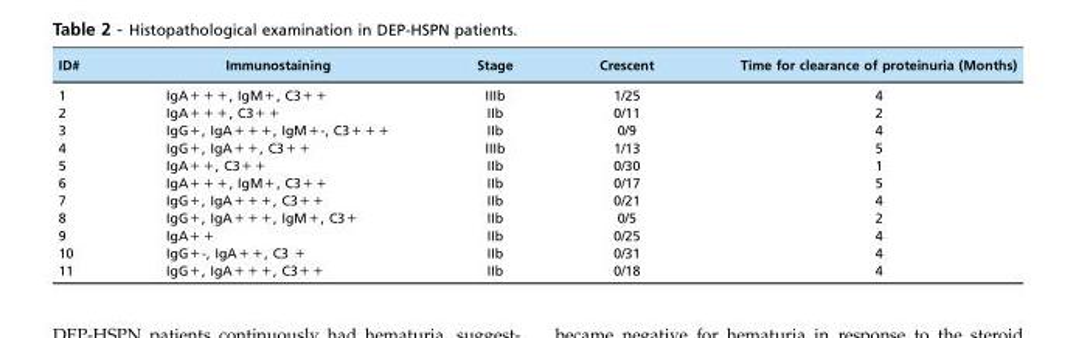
<table><thead><tr><td>ID#</td><td>Immunostaining</td><td>Stage</td><td>Crescent</td><td>Time for clearance of proteinuria (Months)</td></tr></thead><tbody><tr><td>1</td><td>IgA+++, IgM+, C3++</td><td>IIIb</td><td>1/25</td><td>4</td></tr><tr><td>2</td><td>IgA+++, C3++</td><td>IIb</td><td>0/11</td><td>2</td></tr><tr><td>3</td><td>IgG+, IgA+++, IgM+-, C3+++</td><td>IIb</td><td>0/9</td><td>4</td></tr><tr><td>4</td><td>IgG+, IgA++, C3++</td><td>IIIb</td><td>1/13</td><td>5</td></tr><tr><td>5</td><td>IgA++, C3++</td><td>IIb</td><td>0/30</td><td>1</td></tr><tr><td>6</td><td>IgA+++, IgM+, C3++</td><td>IIb</td><td>0/17</td><td>5</td></tr><tr><td>7</td><td>IgG+, IgA+++, C3++</td><td>IIb</td><td>0/21</td><td>4</td></tr><tr><td>8</td><td>IgG+, IgA+++, IgM+, C3+</td><td>IIb</td><td>0/5</td><td>2</td></tr><tr><td>9</td><td>IgA++</td><td>IIb</td><td>0/25</td><td>4</td></tr><tr><td>10</td><td>IgG+-, IgA++, C3 +</td><td>IIb</td><td>0/31</td><td>4</td></tr><tr><td>11</td><td>IgG+, IgA+++, C3++</td><td>IIb</td><td>0/18</td><td>4</td></tr></tbody></table>